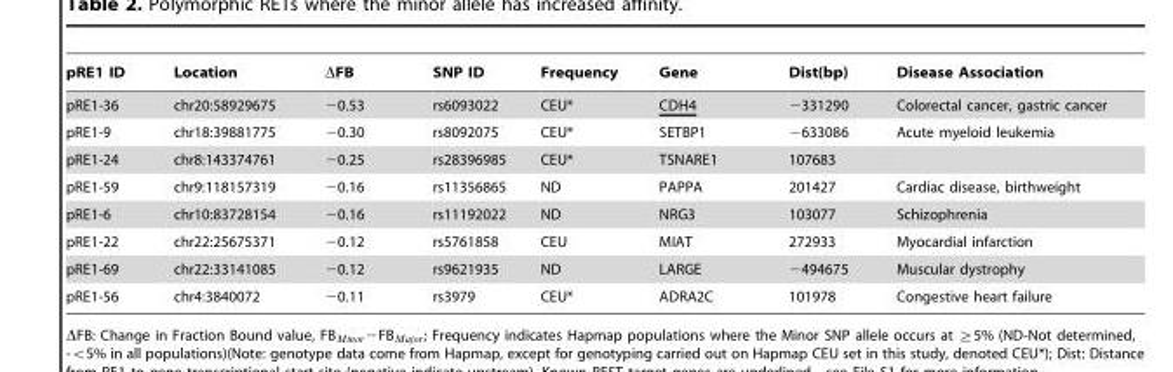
<table><thead><tr><td>pRE1 ID</td><td>Location</td><td>DFB</td><td>SNP ID</td><td>Frequency</td><td>Gene</td><td>Dist(bp)</td><td>Disease Association</td></tr></thead><tbody><tr><td>pRE1-36</td><td>chr20:58929675</td><td>−0.53</td><td>rs6093022</td><td>CEU*</td><td>CDH4</td><td>−331290</td><td>Colorectal cancer, gastric cancer</td></tr><tr><td>pRE1-9</td><td>chr18:39881775</td><td>−0.30</td><td>rs8092075</td><td>CEU*</td><td>SETBP1</td><td>−633086</td><td>Acute myeloid leukemia</td></tr><tr><td>pRE1-24</td><td>chr8:143374761</td><td>−0.25</td><td>rs28396985</td><td>CEU*</td><td>TSNARE1</td><td>107683</td><td></td></tr><tr><td>pRE1-59</td><td>chr9:118157319</td><td>−0.16</td><td>rs11356865</td><td>ND</td><td>PAPPA</td><td>201427</td><td>Cardiac disease, birthweight</td></tr><tr><td>pRE1-6</td><td>chr10:83728154</td><td>−0.16</td><td>rs11192022</td><td>ND</td><td>NRG3</td><td>103077</td><td>Schizophrenia</td></tr><tr><td>pRE1-22</td><td>chr22:25675371</td><td>−0.12</td><td>rs5761858</td><td>CEU</td><td>MIAT</td><td>272933</td><td>Myocardial infarction</td></tr><tr><td>pRE1-69</td><td>chr22:33141085</td><td>−0.12</td><td>rs9621935</td><td>ND</td><td>LARGE</td><td>−494675</td><td>Muscular dystrophy</td></tr><tr><td>pRE1-56</td><td>chr4:3840072</td><td>−0.11</td><td>rs3979</td><td>CEU*</td><td>ADRA2C</td><td>101978</td><td>Congestive heart failure</td></tr></tbody></table>